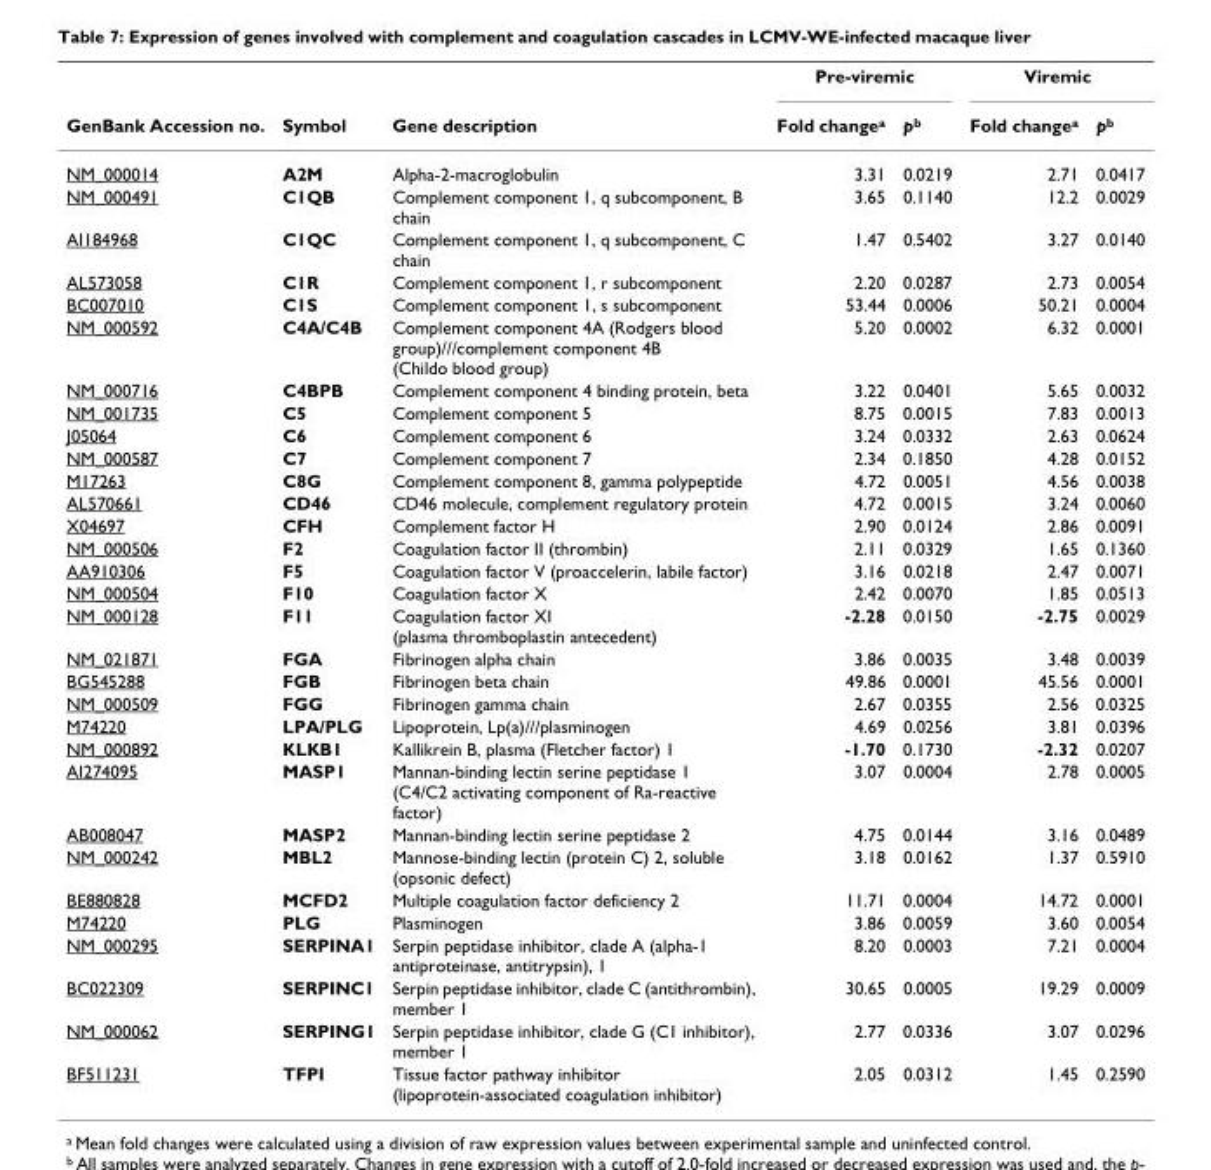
<table><thead><tr><td rowspan="2">GenBank Accession no.</td><td rowspan="2">Symbol</td><td rowspan="2">Gene description</td><td colspan="2">Pre-viremic</td><td colspan="2">Viremic</td></tr><tr><td>Fold change<sup>a</sup></td><td>p<sup>b</sup></td><td>Fold change<sup>a</sup></td><td>p<sup>b</sup></td></tr></thead><tbody><tr><td>NM_000014</td><td>A2M</td><td>Alpha-2-macroglobulin</td><td>3.31</td><td>0.0219</td><td>2.71</td><td>0.0417</td></tr><tr><td>NM_000491</td><td>C1QB</td><td>Complement component 1, q subcomponent, B chain</td><td>3.65</td><td>0.1140</td><td>12.2</td><td>0.0029</td></tr><tr><td>AI184968</td><td>C1QC</td><td>Complement component 1, q subcomponent, C chain</td><td>1.47</td><td>0.5402</td><td>3.27</td><td>0.0140</td></tr><tr><td>AL573058</td><td>C1R</td><td>Complement component 1, r subcomponent</td><td>2.20</td><td>0.0287</td><td>2.73</td><td>0.0054</td></tr><tr><td>BC007010</td><td>C1S</td><td>Complement component 1, s subcomponent</td><td>53.44</td><td>0.0006</td><td>50.21</td><td>0.0004</td></tr><tr><td>NM_000592</td><td>C4A/C4B</td><td>Complement component 4A (Rodgers blood group)///complement component 4B (Childo blood group)</td><td>5.20</td><td>0.0002</td><td>6.32</td><td>0.0001</td></tr><tr><td>NM_000716</td><td>C4BPB</td><td>Complement component 4 binding protein, beta</td><td>3.22</td><td>0.0401</td><td>5.65</td><td>0.0032</td></tr><tr><td>NM_001735</td><td>C5</td><td>Complement component 5</td><td>8.75</td><td>0.0015</td><td>7.83</td><td>0.0013</td></tr><tr><td>J05064</td><td>C6</td><td>Complement component 6</td><td>3.24</td><td>0.0332</td><td>2.63</td><td>0.0624</td></tr><tr><td>NM_000587</td><td>C7</td><td>Complement component 7</td><td>2.34</td><td>0.1850</td><td>4.28</td><td>0.0152</td></tr><tr><td>M17263</td><td>C8G</td><td>Complement component 8, gamma polypeptide</td><td>4.72</td><td>0.0051</td><td>4.56</td><td>0.0038</td></tr><tr><td>AL570661</td><td>CD46</td><td>CD46 molecule, complement regulatory protein</td><td>4.72</td><td>0.0015</td><td>3.24</td><td>0.0060</td></tr><tr><td>X04697</td><td>CFH</td><td>Complement factor H</td><td>2.90</td><td>0.0124</td><td>2.86</td><td>0.0091</td></tr><tr><td>NM_000506</td><td>F2</td><td>Coagulation factor II (thrombin)</td><td>2.11</td><td>0.0329</td><td>1.65</td><td>0.1360</td></tr><tr><td>AA910306</td><td>F5</td><td>Coagulation factor V (proaccelerin, labile factor)</td><td>3.16</td><td>0.0218</td><td>2.47</td><td>0.0071</td></tr><tr><td>NM_000504</td><td>F10</td><td>Coagulation factor X</td><td>2.42</td><td>0.0070</td><td>1.85</td><td>0.0513</td></tr><tr><td>NM_000128</td><td>F11</td><td>Coagulation factor XI (plasma thromboplastin antecedent)</td><td>-2.28</td><td>0.0150</td><td>-2.75</td><td>0.0029</td></tr><tr><td>NM_021871</td><td>FGA</td><td>Fibrinogen alpha chain</td><td>3.86</td><td>0.0035</td><td>3.48</td><td>0.0039</td></tr><tr><td>BG545288</td><td>FGB</td><td>Fibrinogen beta chain</td><td>49.86</td><td>0.0001</td><td>45.56</td><td>0.0001</td></tr><tr><td>NM_000509</td><td>FGG</td><td>Fibrinogen gamma chain</td><td>2.67</td><td>0.0355</td><td>2.56</td><td>0.0325</td></tr><tr><td>M74220</td><td>LPA/PLG</td><td>Lipoprotein, Lp(a)///plasminogen</td><td>4.69</td><td>0.0256</td><td>3.81</td><td>0.0396</td></tr><tr><td>NM_000892</td><td>KLKB1</td><td>Kallikrein B, plasma (Fletcher factor) 1</td><td>-1.70</td><td>0.1730</td><td>-2.32</td><td>0.0207</td></tr><tr><td>AI274095</td><td>MASP1</td><td>Mannan-binding lectin serine peptidase 1 (C4/C2 activating component of Ra-reactive factor)</td><td>3.07</td><td>0.0004</td><td>2.78</td><td>0.0005</td></tr><tr><td>AB008047</td><td>MASP2</td><td>Mannan-binding lectin serine peptidase 2</td><td>4.75</td><td>0.0144</td><td>3.16</td><td>0.0489</td></tr><tr><td>NM_000242</td><td>MBL2</td><td>Mannose-binding lectin (protein C) 2, soluble (opsonic defect)</td><td>3.18</td><td>0.0162</td><td>1.37</td><td>0.5910</td></tr><tr><td>BE880828</td><td>MCFD2</td><td>Multiple coagulation factor deficiency 2</td><td>11.71</td><td>0.0004</td><td>14.72</td><td>0.0001</td></tr><tr><td>M74220</td><td>PLG</td><td>Plasminogen</td><td>3.86</td><td>0.0059</td><td>3.60</td><td>0.0054</td></tr><tr><td>NM_000295</td><td>SERPINA1</td><td>Serpin peptidase inhibitor, clade A (alpha-1 antiproteinase, antitrypsin), 1</td><td>8.20</td><td>0.0003</td><td>7.21</td><td>0.0004</td></tr><tr><td>BC022309</td><td>SERPINC1</td><td>Serpin peptidase inhibitor, clade C (antithrombin), member 1</td><td>30.65</td><td>0.0005</td><td>19.29</td><td>0.0009</td></tr><tr><td>NM_000062</td><td>SERPING1</td><td>Serpin peptidase inhibitor, clade G (C1 inhibitor), member 1</td><td>2.77</td><td>0.0336</td><td>3.07</td><td>0.0296</td></tr><tr><td>BF511231</td><td>TFPI</td><td>Tissue factor pathway inhibitor (lipoprotein-associated coagulation inhibitor)</td><td>2.05</td><td>0.0312</td><td>1.45</td><td>0.2590</td></tr></tbody></table>